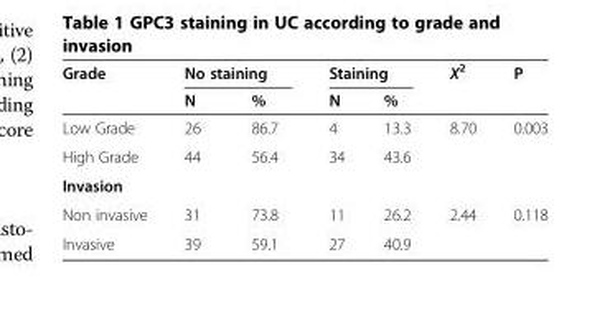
<table><thead><tr><td rowspan="2">Grade</td><td colspan="2">No staining</td><td colspan="2">Staining</td><td rowspan="2">X<sup>2</sup></td><td rowspan="2">P</td></tr><tr><td>N</td><td>%</td><td>N</td><td>%</td></tr></thead><tbody><tr><td>Low Grade</td><td>26</td><td>86.7</td><td>4</td><td>13.3</td><td rowspan="2">8.70</td><td rowspan="2">0.003</td></tr><tr><td>High Grade</td><td>44</td><td>56.4</td><td>34</td><td>43.6</td></tr><tr><td colspan="7">Invasion</td></tr><tr><td>Non invasive</td><td>31</td><td>73.8</td><td>11</td><td>26.2</td><td rowspan="2">2.44</td><td rowspan="2">0.118</td></tr><tr><td>Invasive</td><td>39</td><td>59.1</td><td>27</td><td>40.9</td></tr></tbody></table>